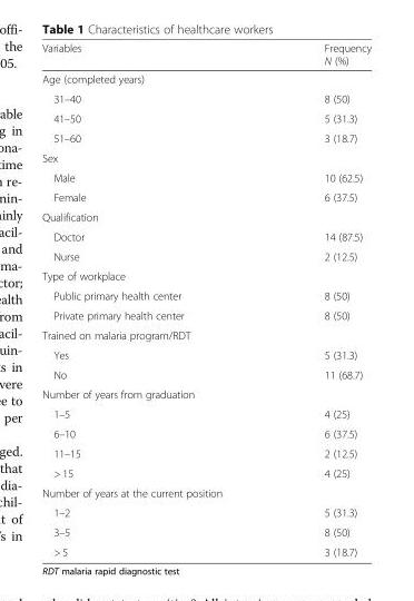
<table><thead><tr><td>Variables</td><td>Frequency N (%)</td></tr></thead><tbody><tr><td colspan="2">Age (completed years)</td></tr><tr><td>31–40</td><td>8 (50)</td></tr><tr><td>41–50</td><td>5 (31.3)</td></tr><tr><td>51–60</td><td>3 (18.7)</td></tr><tr><td colspan="2">Sex</td></tr><tr><td>Male</td><td>10 (62.5)</td></tr><tr><td>Female</td><td>6 (37.5)</td></tr><tr><td colspan="2">Qualification</td></tr><tr><td>Doctor</td><td>14 (87.5)</td></tr><tr><td>Nurse</td><td>2 (12.5)</td></tr><tr><td colspan="2">Type of workplace</td></tr><tr><td>Public primary health center</td><td>8 (50)</td></tr><tr><td>Private primary health center</td><td>8 (50)</td></tr><tr><td colspan="2">Trained on malaria program/RDT</td></tr><tr><td>Yes</td><td>5 (31.3)</td></tr><tr><td>No</td><td>11 (68.7)</td></tr><tr><td colspan="2">Number of years from graduation</td></tr><tr><td>1–5</td><td>4 (25)</td></tr><tr><td>6–10</td><td>6 (37.5)</td></tr><tr><td>11–15</td><td>2 (12.5)</td></tr><tr><td>&gt; 15</td><td>4 (25)</td></tr><tr><td colspan="2">Number of years at the current position</td></tr><tr><td>1–2</td><td>5 (31.3)</td></tr><tr><td>3–5</td><td>8 (50)</td></tr><tr><td>&gt; 5</td><td>3 (18.7)</td></tr></tbody></table>